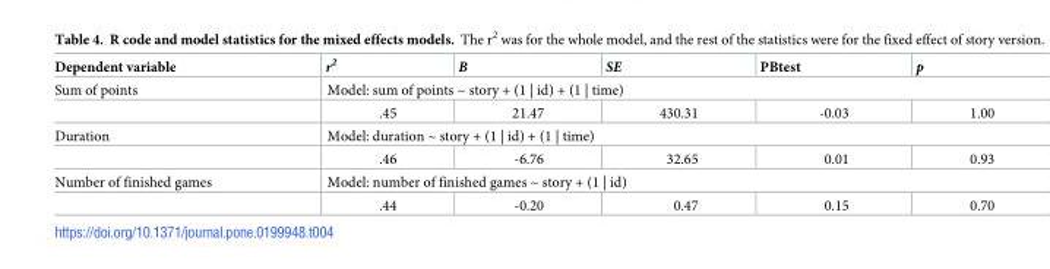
<table><thead><tr><td>Dependent variable</td><td>r<sup>2</sup></td><td>B</td><td>SE</td><td>PBtest</td><td>p</td></tr></thead><tbody><tr><td rowspan="2">Sum of points</td><td colspan="5">Model: sum of points ~ story + (1 | id) + (1 | time)</td></tr><tr><td>.45</td><td>21.47</td><td>430.31</td><td>-0.03</td><td>1.00</td></tr><tr><td rowspan="2">Duration</td><td colspan="5">Model: duration ~ story + (1 | id) + (1 | time)</td></tr><tr><td>.46</td><td>-6.76</td><td>32.65</td><td>0.01</td><td>0.93</td></tr><tr><td rowspan="2">Number of finished games</td><td colspan="5">Model: number of finished games ~ story + (1 | id)</td></tr><tr><td>.44</td><td>-0.20</td><td>0.47</td><td>0.15</td><td>0.70</td></tr></tbody></table>